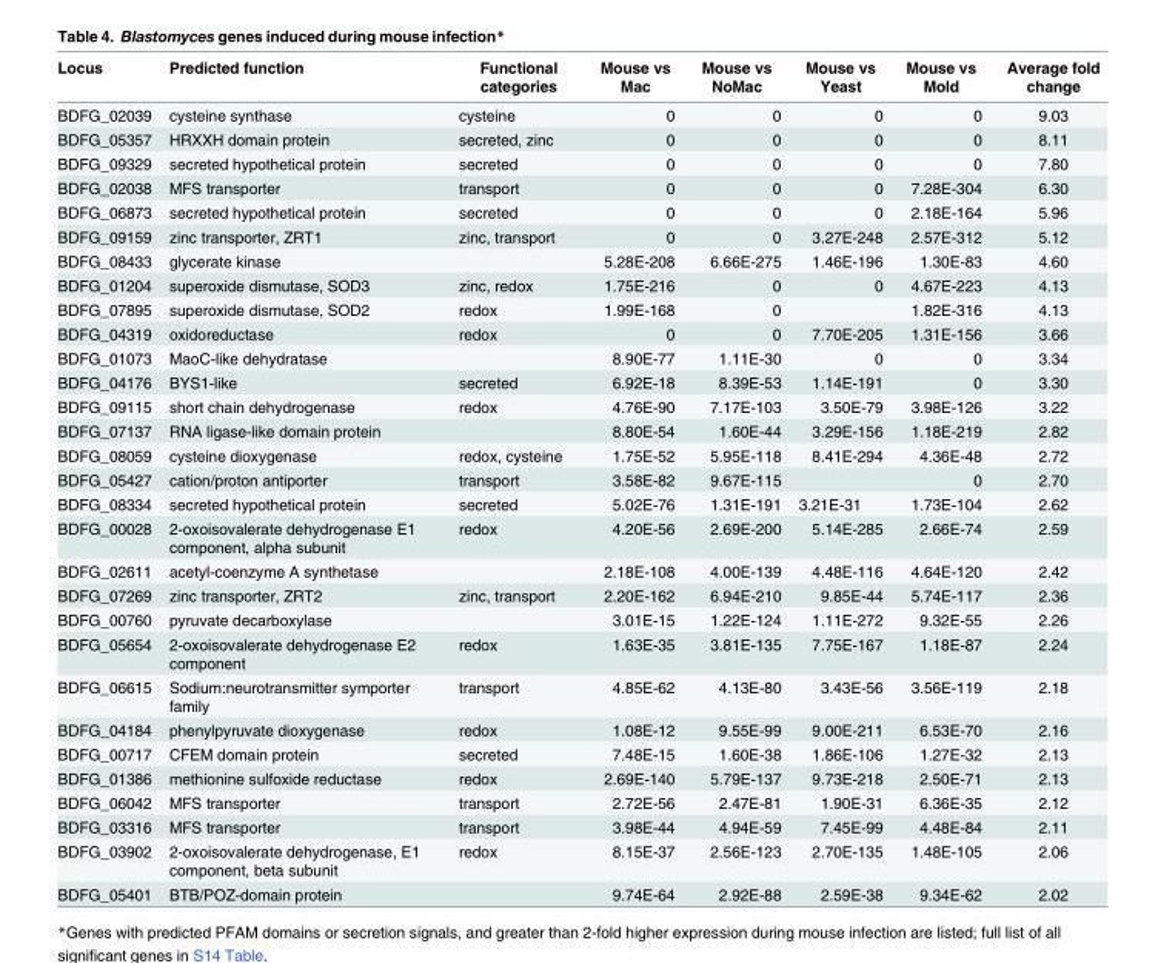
<table><thead><tr><td>Locus</td><td>Predicted function</td><td>Functional categories</td><td>Mouse vs Mac</td><td>Mouse vs NoMac</td><td>Mouse vs Yeast</td><td>Mouse vs Mold</td><td>Average fold change</td></tr></thead><tbody><tr><td>BDFG_02039</td><td>cysteine synthase</td><td>cysteine</td><td>0</td><td>0</td><td>0</td><td>0</td><td>9.03</td></tr><tr><td>BDFG_05357</td><td>HRXXH domain protein</td><td>secreted, zinc</td><td>0</td><td>0</td><td>0</td><td>0</td><td>8.11</td></tr><tr><td>BDFG_09329</td><td>secreted hypothetical protein</td><td>secreted</td><td>0</td><td>0</td><td>0</td><td>0</td><td>7.80</td></tr><tr><td>BDFG_02038</td><td>MFS transporter</td><td>transport</td><td>0</td><td>0</td><td>0</td><td>7.28E-304</td><td>6.30</td></tr><tr><td>BDFG_06873</td><td>secreted hypothetical protein</td><td>secreted</td><td>0</td><td>0</td><td>0</td><td>2.18E-164</td><td>5.96</td></tr><tr><td>BDFG_09159</td><td>zinc transporter, ZRT1</td><td>zinc, transport</td><td>0</td><td>0</td><td>3.27E-248</td><td>2.57E-312</td><td>5.12</td></tr><tr><td>BDFG_08433</td><td>glycerate kinase</td><td></td><td>5.28E-208</td><td>6.66E-275</td><td>1.46E-196</td><td>1.30E-83</td><td>4.60</td></tr><tr><td>BDFG_01204</td><td>superoxide dismutase, SOD3</td><td>zinc, redox</td><td>1.75E-216</td><td>0</td><td>0</td><td>4.67E-223</td><td>4.13</td></tr><tr><td>BDFG_07895</td><td>superoxide dismutase, SOD2</td><td>redox</td><td>1.99E-168</td><td>0</td><td></td><td>1.82E-316</td><td>4.13</td></tr><tr><td>BDFG_04319</td><td>oxidoreductase</td><td>redox</td><td>0</td><td>0</td><td>7.70E-205</td><td>1.31E-156</td><td>3.66</td></tr><tr><td>BDFG_01073</td><td>MaoC-like dehydratase</td><td></td><td>8.90E-77</td><td>1.11E-30</td><td>0</td><td>0</td><td>3.34</td></tr><tr><td>BDFG_04176</td><td>BYS1-like</td><td>secreted</td><td>6.92E-18</td><td>8.39E-53</td><td>1.14E-191</td><td>0</td><td>3.30</td></tr><tr><td>BDFG_09115</td><td>short chain dehydrogenase</td><td>redox</td><td>4.76E-90</td><td>7.17E-103</td><td>3.50E-79</td><td>3.98E-126</td><td>3.22</td></tr><tr><td>BDFG_07137</td><td>RNA ligase-like domain protein</td><td></td><td>8.80E-54</td><td>1.60E-44</td><td>3.29E-156</td><td>1.18E-219</td><td>2.82</td></tr><tr><td>BDFG_08059</td><td>cysteine dioxygenase</td><td>redox, cysteine</td><td>1.75E-52</td><td>5.95E-118</td><td>8.41E-294</td><td>4.36E-48</td><td>2.72</td></tr><tr><td>BDFG_05427</td><td>cation/proton antiporter</td><td>transport</td><td>3.58E-82</td><td>9.67E-115</td><td></td><td>0</td><td>2.70</td></tr><tr><td>BDFG_08334</td><td>secreted hypothetical protein</td><td>secreted</td><td>5.02E-76</td><td>1.31E-191</td><td>3.21E-31</td><td>1.73E-104</td><td>2.62</td></tr><tr><td>BDFG_00028</td><td>2-oxoisovalerate dehydrogenase E1 component, alpha subunit</td><td>redox</td><td>4.20E-56</td><td>2.69E-200</td><td>5.14E-285</td><td>2.66E-74</td><td>2.59</td></tr><tr><td>BDFG_02611</td><td>acetyl-coenzyme A synthetase</td><td></td><td>2.18E-108</td><td>4.00E-139</td><td>4.48E-116</td><td>4.64E-120</td><td>2.42</td></tr><tr><td>BDFG_07269</td><td>zinc transporter, ZRT2</td><td>zinc, transport</td><td>2.20E-162</td><td>6.94E-210</td><td>9.85E-44</td><td>5.74E-117</td><td>2.36</td></tr><tr><td>BDFG_00760</td><td>pyruvate decarboxylase</td><td></td><td>3.01E-15</td><td>1.22E-124</td><td>1.11E-272</td><td>9.32E-55</td><td>2.26</td></tr><tr><td>BDFG_05654</td><td>2-oxoisovalerate dehydrogenase E2 component</td><td>redox</td><td>1.63E-35</td><td>3.81E-135</td><td>7.75E-167</td><td>1.18E-87</td><td>2.24</td></tr><tr><td>BDFG_06615</td><td>Sodium:neurotransmitter symporter family</td><td>transport</td><td>4.85E-62</td><td>4.13E-80</td><td>3.43E-56</td><td>3.56E-119</td><td>2.18</td></tr><tr><td>BDFG_04184</td><td>phenylpyruvate dioxygenase</td><td>redox</td><td>1.08E-12</td><td>9.55E-99</td><td>9.00E-211</td><td>6.53E-70</td><td>2.16</td></tr><tr><td>BDFG_00717</td><td>CFEM domain protein</td><td>secreted</td><td>7.48E-15</td><td>1.60E-38</td><td>1.86E-106</td><td>1.27E-32</td><td>2.13</td></tr><tr><td>BDFG_01386</td><td>methionine sulfoxide reductase</td><td>redox</td><td>2.69E-140</td><td>5.79E-137</td><td>9.73E-218</td><td>2.50E-71</td><td>2.13</td></tr><tr><td>BDFG_06042</td><td>MFS transporter</td><td>transport</td><td>2.72E-56</td><td>2.47E-81</td><td>1.90E-31</td><td>6.36E-35</td><td>2.12</td></tr><tr><td>BDFG_03316</td><td>MFS transporter</td><td>transport</td><td>3.98E-44</td><td>4.94E-59</td><td>7.45E-99</td><td>4.48E-84</td><td>2.11</td></tr><tr><td>BDFG_03902</td><td>2-oxoisovalerate dehydrogenase, E1 component, beta subunit</td><td>redox</td><td>8.15E-37</td><td>2.56E-123</td><td>2.70E-135</td><td>1.48E-105</td><td>2.06</td></tr><tr><td>BDFG_05401</td><td>BTB/POZ-domain protein</td><td></td><td>9.74E-64</td><td>2.92E-88</td><td>2.59E-38</td><td>9.34E-62</td><td>2.02</td></tr></tbody></table>